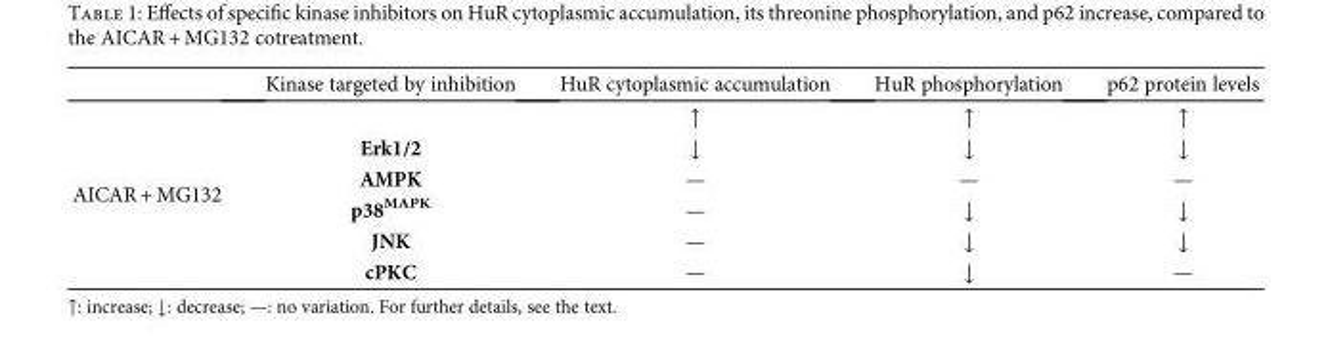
<table><thead><tr><td></td><td>Kinase targeted by inhibition</td><td>HuR cytoplasmic accumulation</td><td>HuR phosphorylation</td><td>p62 protein levels</td></tr></thead><tbody><tr><td rowspan="6">AICAR + MG132</td><td></td><td>↑</td><td>↑</td><td>↑</td></tr><tr><td>Erk1/2</td><td>↓</td><td>↓</td><td>↓</td></tr><tr><td>AMPK</td><td>—</td><td>—</td><td>—</td></tr><tr><td>p38<sup>MAPK</sup></td><td>—</td><td>↓</td><td>↓</td></tr><tr><td>JNK</td><td>—</td><td>↓</td><td>↓</td></tr><tr><td>cPKC</td><td>—</td><td>↓</td><td>—</td></tr></tbody></table>